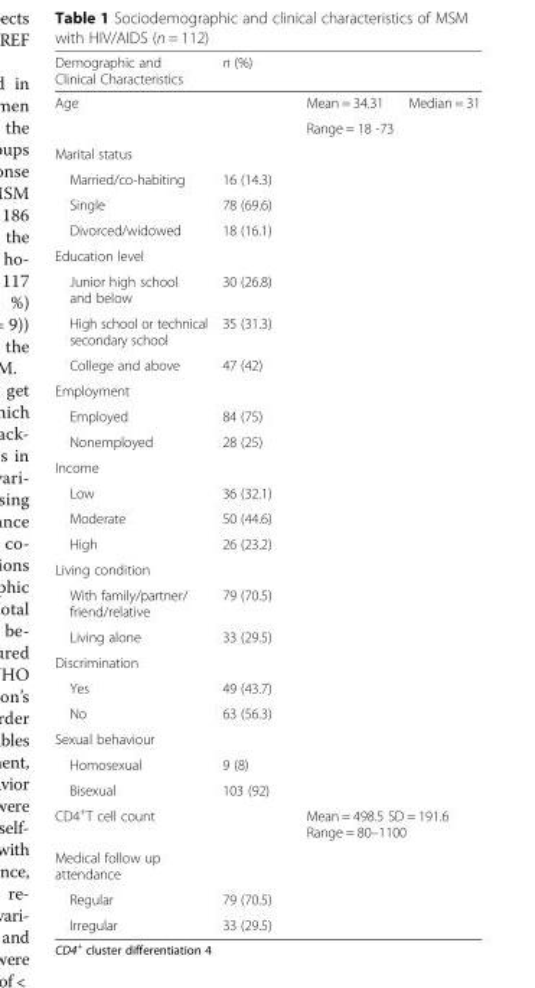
<table><thead><tr><td>Demographic and Clinical Characteristics</td><td>n (%)</td><td></td><td></td></tr></thead><tbody><tr><td rowspan="2">Age</td><td rowspan="2"></td><td>Mean = 34.31</td><td>Median = 31</td></tr><tr><td>Range = 18 -73</td><td></td></tr><tr><td colspan="4">Marital status</td></tr><tr><td>Married/co-habiting</td><td>16 (14.3)</td><td colspan="2"></td></tr><tr><td>Single</td><td>78 (69.6)</td><td colspan="2"></td></tr><tr><td>Divorced/widowed</td><td>18 (16.1)</td><td colspan="2"></td></tr><tr><td colspan="4">Education level</td></tr><tr><td>Junior high school and below</td><td>30 (26.8)</td><td colspan="2"></td></tr><tr><td>High school or technical secondary school</td><td>35 (31.3)</td><td colspan="2"></td></tr><tr><td>College and above</td><td>47 (42)</td><td colspan="2"></td></tr><tr><td colspan="4">Employment</td></tr><tr><td>Employed</td><td>84 (75)</td><td colspan="2"></td></tr><tr><td>Nonemployed</td><td>28 (25)</td><td colspan="2"></td></tr><tr><td colspan="4">Income</td></tr><tr><td>Low</td><td>36 (32.1)</td><td colspan="2"></td></tr><tr><td>Moderate</td><td>50 (44.6)</td><td colspan="2"></td></tr><tr><td>High</td><td>26 (23.2)</td><td colspan="2"></td></tr><tr><td colspan="4">Living condition</td></tr><tr><td>With family/partner/ friend/relative</td><td>79 (70.5)</td><td colspan="2"></td></tr><tr><td>Living alone</td><td>33 (29.5)</td><td colspan="2"></td></tr><tr><td colspan="4">Discrimination</td></tr><tr><td>Yes</td><td>49 (43.7)</td><td colspan="2"></td></tr><tr><td>No</td><td>63 (56.3)</td><td colspan="2"></td></tr><tr><td colspan="4">Sexual behaviour</td></tr><tr><td>Homosexual</td><td>9 (8)</td><td colspan="2"></td></tr><tr><td>Bisexual</td><td>103 (92)</td><td colspan="2"></td></tr><tr><td>CD4<sup>+</sup>T cell count</td><td></td><td colspan="2">Mean = 498.5 SD = 191.6 Range = 80–1100</td></tr><tr><td colspan="4">Medical follow up attendance</td></tr><tr><td>Regular</td><td>79 (70.5)</td><td colspan="2"></td></tr><tr><td>Irregular</td><td>33 (29.5)</td><td colspan="2"></td></tr></tbody></table>